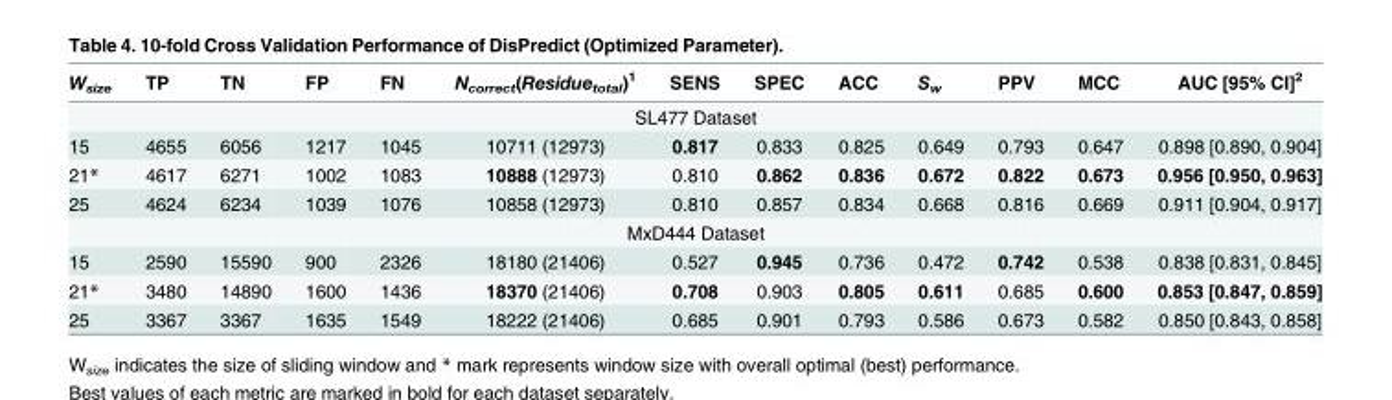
<table><thead><tr><td>W<sub>size</sub></td><td>TP</td><td>TN</td><td>FP</td><td>FN</td><td>N<sub>correct</sub>(Residue<sub>total</sub>)<sup>1</sup></td><td>SENS</td><td>SPEC</td><td>ACC</td><td>S<sub>w</sub></td><td>PPV</td><td>MCC</td><td>AUC [95% CI]<sup>2</sup></td></tr></thead><tbody><tr><td colspan="13">SL477 Dataset</td></tr><tr><td>15</td><td>4655</td><td>6056</td><td>1217</td><td>1045</td><td>10711 (12973)</td><td>0.817</td><td>0.833</td><td>0.825</td><td>0.649</td><td>0.793</td><td>0.647</td><td>0.898 [0.890, 0.904]</td></tr><tr><td>21*</td><td>4617</td><td>6271</td><td>1002</td><td>1083</td><td>10888 (12973)</td><td>0.810</td><td>0.862</td><td>0.836</td><td>0.672</td><td>0.822</td><td>0.673</td><td>0.956 [0.950, 0.963]</td></tr><tr><td>25</td><td>4624</td><td>6234</td><td>1039</td><td>1076</td><td>10858 (12973)</td><td>0.810</td><td>0.857</td><td>0.834</td><td>0.668</td><td>0.816</td><td>0.669</td><td>0.911 [0.904, 0.917]</td></tr><tr><td colspan="13">MxD444 Dataset</td></tr><tr><td>15</td><td>2590</td><td>15590</td><td>900</td><td>2326</td><td>18180 (21406)</td><td>0.527</td><td>0.945</td><td>0.736</td><td>0.472</td><td>0.742</td><td>0.538</td><td>0.838 [0.831, 0.845]</td></tr><tr><td>21*</td><td>3480</td><td>14890</td><td>1600</td><td>1436</td><td>18370 (21406)</td><td>0.708</td><td>0.903</td><td>0.805</td><td>0.611</td><td>0.685</td><td>0.600</td><td>0.853 [0.847, 0.859]</td></tr><tr><td>25</td><td>3367</td><td>3367</td><td>1635</td><td>1549</td><td>18222 (21406)</td><td>0.685</td><td>0.901</td><td>0.793</td><td>0.586</td><td>0.673</td><td>0.582</td><td>0.850 [0.843, 0.858]</td></tr></tbody></table>